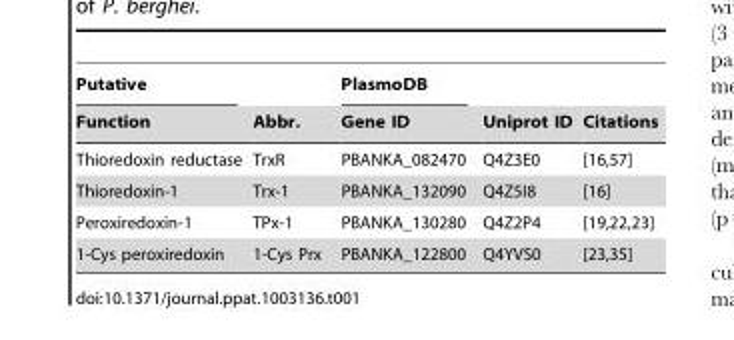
<table><thead><tr><td rowspan="2">Putative Function</td><td rowspan="2">Abbr.</td><td rowspan="2">PlasmoDB Gene ID</td><td rowspan="2">Uniprot ID</td><td rowspan="2">Citations</td></tr><tr></tr></thead><tbody><tr><td>Thioredoxin reductase</td><td>TrxR</td><td>PBANKA_082470</td><td>Q4Z3E0</td><td>[16,57]</td></tr><tr><td>Thioredoxin-1</td><td>Trx-1</td><td>PBANKA_132090</td><td>Q4Z5I8</td><td>[16]</td></tr><tr><td>Peroxiredoxin-1</td><td>TPx-1</td><td>PBANKA_130280</td><td>Q4Z2P4</td><td>[19,22,23]</td></tr><tr><td>1-Cys peroxiredoxin</td><td>1-Cys Prx</td><td>PBANKA_122800</td><td>Q4YVS0</td><td>[23,35]</td></tr></tbody></table>